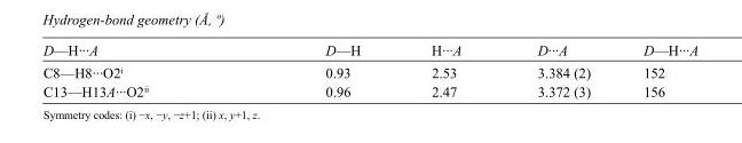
<table><tbody><tr><td>D—H···A</td><td>D—H</td><td>H···A</td><td>D···A</td><td>D—H···A</td></tr><tr><td>C8—H8···O2<sup>i</sup></td><td>0.93</td><td>2.53</td><td>3.384 (2)</td><td>152</td></tr><tr><td>C13—H13A···O2<sup>ii</sup></td><td>0.96</td><td>2.47</td><td>3.372 (3)</td><td>156</td></tr></tbody></table>